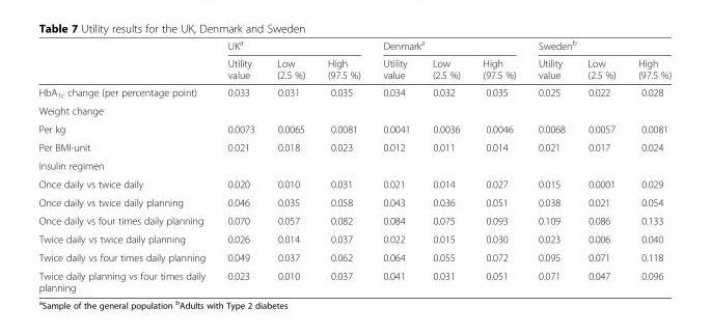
<table><thead><tr><td rowspan="2"></td><td colspan="3">UK<sup>a</sup></td><td colspan="3">Denmark<sup>a</sup></td><td colspan="3">Sweden<sup>b</sup></td></tr><tr><td>Utility value</td><td>Low (2.5 %)</td><td>High (97.5 %)</td><td>Utility value</td><td>Low (2.5 %)</td><td>High (97.5 %)</td><td>Utility value</td><td>Low (2.5 %)</td><td>High (97.5 %)</td></tr></thead><tbody><tr><td>HbA<sub>1c</sub> change (per percentage point)</td><td>0.033</td><td>0.031</td><td>0.035</td><td>0.034</td><td>0.032</td><td>0.035</td><td>0.025</td><td>0.022</td><td>0.028</td></tr><tr><td colspan="10">Weight change</td></tr><tr><td>Per kg</td><td>0.0073</td><td>0.0065</td><td>0.0081</td><td>0.0041</td><td>0.0036</td><td>0.0046</td><td>0.0068</td><td>0.0057</td><td>0.0081</td></tr><tr><td>Per BMI-unit</td><td>0.021</td><td>0.018</td><td>0.023</td><td>0.012</td><td>0.011</td><td>0.014</td><td>0.021</td><td>0.017</td><td>0.024</td></tr><tr><td colspan="10">Insulin regimen</td></tr><tr><td>Once daily vs twice daily</td><td>0.020</td><td>0.010</td><td>0.031</td><td>0.021</td><td>0.014</td><td>0.027</td><td>0.015</td><td>0.0001</td><td>0.029</td></tr><tr><td>Once daily vs twice daily planning</td><td>0.046</td><td>0.035</td><td>0.058</td><td>0.043</td><td>0.036</td><td>0.051</td><td>0.038</td><td>0.021</td><td>0.054</td></tr><tr><td>Once daily vs four times daily planning</td><td>0.070</td><td>0.057</td><td>0.082</td><td>0.084</td><td>0.075</td><td>0.093</td><td>0.109</td><td>0.086</td><td>0.133</td></tr><tr><td>Twice daily vs twice daily planning</td><td>0.026</td><td>0.014</td><td>0.037</td><td>0.022</td><td>0.015</td><td>0.030</td><td>0.023</td><td>0.006</td><td>0.040</td></tr><tr><td>Twice daily vs four times daily planning</td><td>0.049</td><td>0.037</td><td>0.062</td><td>0.064</td><td>0.055</td><td>0.072</td><td>0.095</td><td>0.071</td><td>0.118</td></tr><tr><td>Twice daily planning vs four times daily planning</td><td>0.023</td><td>0.010</td><td>0.037</td><td>0.041</td><td>0.031</td><td>0.051</td><td>0.071</td><td>0.047</td><td>0.096</td></tr></tbody></table>